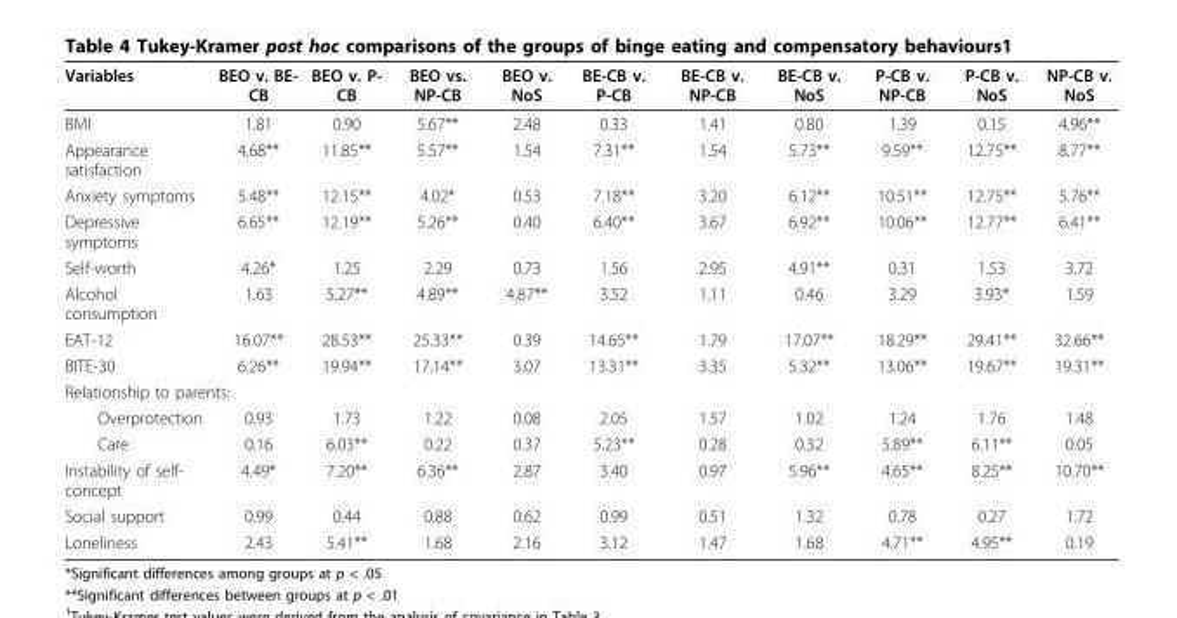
<table><thead><tr><td>Variables</td><td>BEO v. BE- CB</td><td>BEO v. P- CB</td><td>BEO vs. NP-CB</td><td>BEO v. NoS</td><td>BE-CB v. P-CB</td><td>BE-CB v. NP-CB</td><td>BE-CB v. NoS</td><td>P-CB v. NP-CB</td><td>P-CB v. NoS</td><td>NP-CB v. NoS</td></tr></thead><tbody><tr><td>BMI</td><td>1.81</td><td>0.90</td><td>5.67**</td><td>2.48</td><td>0.33</td><td>1.41</td><td>0.80</td><td>1.39</td><td>0.15</td><td>4.96**</td></tr><tr><td>Appearance satisfaction</td><td>4.68**</td><td>11.85**</td><td>5.57**</td><td>1.54</td><td>7.31**</td><td>1.54</td><td>5.73**</td><td>9.59**</td><td>12.75**</td><td>8.77**</td></tr><tr><td>Anxiety symptoms</td><td>5.48**</td><td>12.15**</td><td>4.02*</td><td>0.53</td><td>7.18**</td><td>3.20</td><td>6.12**</td><td>10.51**</td><td>12.75**</td><td>5.76**</td></tr><tr><td>Depressive symptoms</td><td>6.65**</td><td>12.19**</td><td>5.26**</td><td>0.40</td><td>6.40**</td><td>3.67</td><td>6.92**</td><td>10.06**</td><td>12.77**</td><td>6.41**</td></tr><tr><td>Self-worth</td><td>4.26*</td><td>1.25</td><td>2.29</td><td>0.73</td><td>1.56</td><td>2.95</td><td>4.91**</td><td>0.31</td><td>1.53</td><td>3.72</td></tr><tr><td>Alcohol consumption</td><td>1.63</td><td>5.27**</td><td>4.89**</td><td>4.87**</td><td>3.52</td><td>1.11</td><td>0.46</td><td>3.29</td><td>3.93*</td><td>1.59</td></tr><tr><td>EAT-12</td><td>16.07**</td><td>28.53**</td><td>25.33**</td><td>0.39</td><td>14.65**</td><td>1.79</td><td>17.07**</td><td>18.29**</td><td>29.41**</td><td>32.66**</td></tr><tr><td>BITE-30</td><td>6.26**</td><td>19.94**</td><td>17.14**</td><td>3.07</td><td>13.31**</td><td>3.35</td><td>5.32**</td><td>13.06**</td><td>19.67**</td><td>19.31**</td></tr><tr><td colspan="11">Relationship to parents:</td></tr><tr><td>Overprotection</td><td>0.93</td><td>1.73</td><td>1.22</td><td>0.08</td><td>2.05</td><td>1.57</td><td>1.02</td><td>1.24</td><td>1.76</td><td>1.48</td></tr><tr><td>Care</td><td>0.16</td><td>6.03**</td><td>0.22</td><td>0.37</td><td>5.23**</td><td>0.28</td><td>0.32</td><td>5.89**</td><td>6.11**</td><td>0.05</td></tr><tr><td>Instability of self- concept</td><td>4.49*</td><td>7.20**</td><td>6.36**</td><td>2.87</td><td>3.40</td><td>0.97</td><td>5.96**</td><td>4.65**</td><td>8.25**</td><td>10.70**</td></tr><tr><td>Social support</td><td>0.99</td><td>0.44</td><td>0.88</td><td>0.62</td><td>0.99</td><td>0.51</td><td>1.32</td><td>0.78</td><td>0.27</td><td>1.72</td></tr><tr><td>Loneliness</td><td>2.43</td><td>5.41**</td><td>1.68</td><td>2.16</td><td>3.12</td><td>1.47</td><td>1.68</td><td>4.71**</td><td>4.95**</td><td>0.19</td></tr></tbody></table>